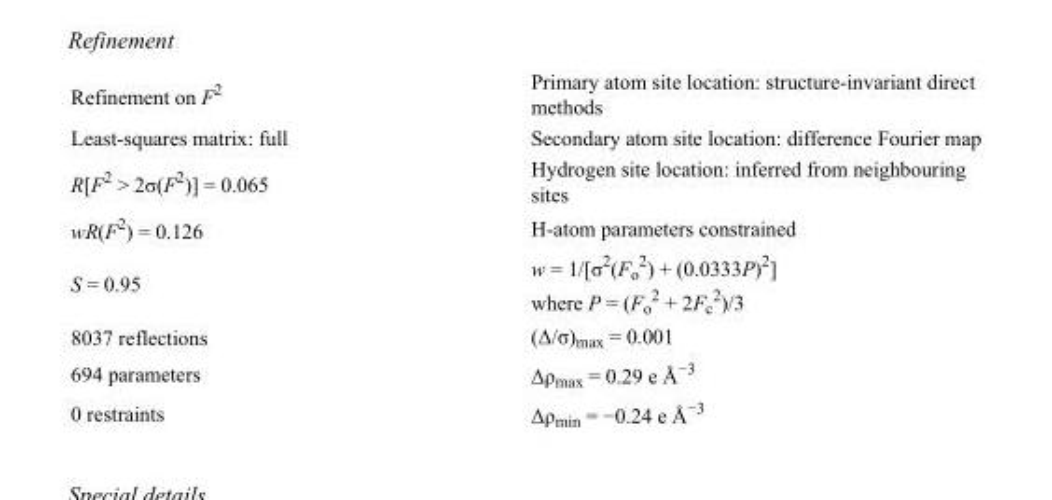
<table><tbody><tr><td>Refinement on F<sup>2</sup></td><td>Primary atom site location: structure-invariant direct methods</td></tr><tr><td>Least-squares matrix: full</td><td>Secondary atom site location: difference Fourier map</td></tr><tr><td>R[F<sup>2</sup> &gt; 2σ(F<sup>2</sup>)] = 0.065</td><td>Hydrogen site location: inferred from neighbouring sites</td></tr><tr><td>wR(F<sup>2</sup>) = 0.126</td><td>H-atom parameters constrained</td></tr><tr><td>S = 0.95</td><td>w = 1/[σ<sup>2</sup>(F<sub>o</sub> <sup>2</sup>) + (0.0333P)<sup>2</sup>] where P = (F<sub>o</sub> <sup>2</sup> + 2F<sub>c</sub> <sup>2</sup>)/3</td></tr><tr><td>8037 reflections</td><td>(Δ/σ)<sub>max</sub> = 0.001</td></tr><tr><td>694 parameters</td><td>Δρ<sub>max</sub> = 0.29 e Å<sup>−3</sup></td></tr><tr><td>0 restraints</td><td>Δρ<sub>min</sub> = −0.24 e Å<sup>−3</sup></td></tr></tbody></table>